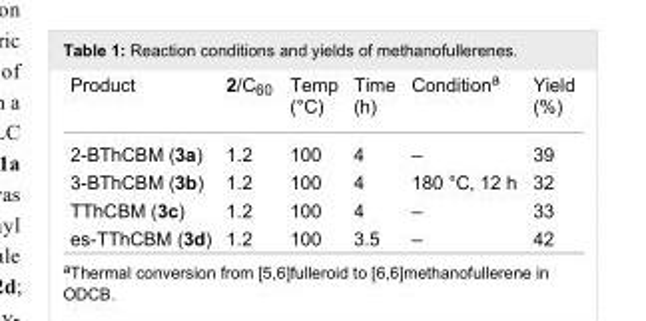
<table><tbody><tr><td>Product</td><td>2/C<sub>60</sub></td><td>Temp (°C)</td><td>Time (h)</td><td>Condition<sup>a</sup></td><td>Yield (%)</td></tr><tr><td>2-BThCBM (3a)</td><td>1.2</td><td>100</td><td>4</td><td>–</td><td>39</td></tr><tr><td>3-BThCBM (3b)</td><td>1.2</td><td>100</td><td>4</td><td>180 °C, 12 h</td><td>32</td></tr><tr><td>TThCBM (3c)</td><td>1.2</td><td>100</td><td>4</td><td>–</td><td>33</td></tr><tr><td>es-TThCBM (3d)</td><td>1.2</td><td>100</td><td>3.5</td><td>–</td><td>42</td></tr></tbody></table>